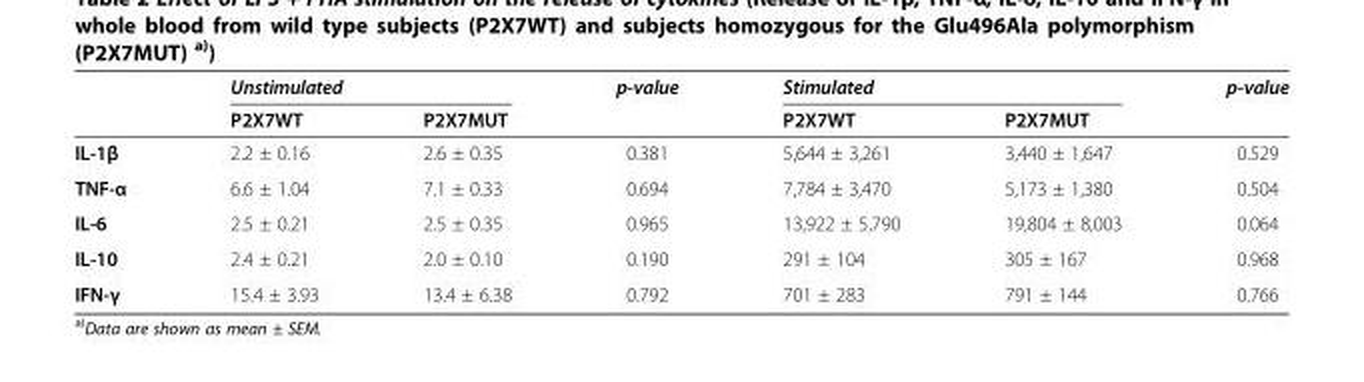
<table><thead><tr><td rowspan="2"></td><td colspan="2">Unstimulated</td><td rowspan="2">p-value</td><td colspan="2">Stimulated</td><td rowspan="2">p-value</td></tr><tr><td>P2X7WT</td><td>P2X7MUT</td><td>P2X7WT</td><td>P2X7MUT</td></tr></thead><tbody><tr><td>IL-1β</td><td>2.2 ± 0.16</td><td>2.6 ± 0.35</td><td>0.381</td><td>5,644 ± 3,261</td><td>3,440 ± 1,647</td><td>0.529</td></tr><tr><td>TNF-α</td><td>6.6 ± 1.04</td><td>7.1 ± 0.33</td><td>0.694</td><td>7,784 ± 3,470</td><td>5,173 ± 1,380</td><td>0.504</td></tr><tr><td>IL-6</td><td>2.5 ± 0.21</td><td>2.5 ± 0.35</td><td>0.965</td><td>13,922 ± 5,790</td><td>19,804 ± 8,003</td><td>0.064</td></tr><tr><td>IL-10</td><td>2.4 ± 0.21</td><td>2.0 ± 0.10</td><td>0.190</td><td>291 ± 104</td><td>305 ± 167</td><td>0.968</td></tr><tr><td>IFN-γ</td><td>15.4 ± 3.93</td><td>13.4 ± 6.38</td><td>0.792</td><td>701 ± 283</td><td>791 ± 144</td><td>0.766</td></tr></tbody></table>